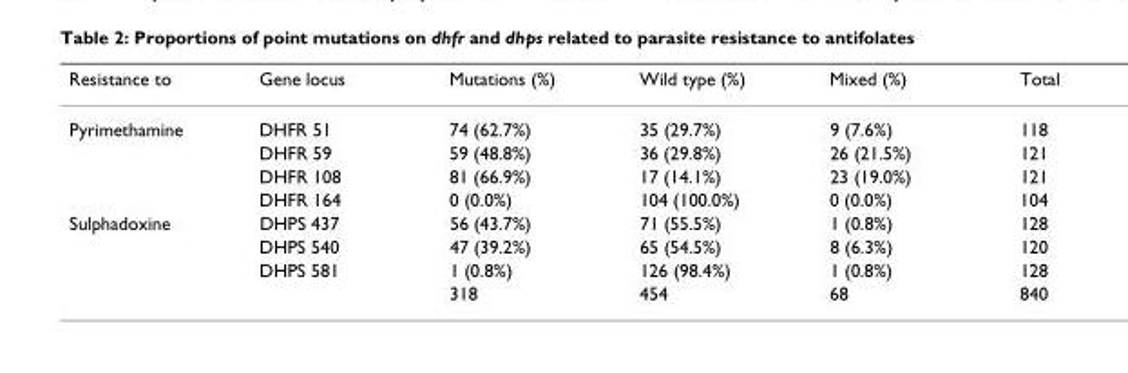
<table><thead><tr><td>Resistance to</td><td>Gene locus</td><td>Mutations (%)</td><td>Wild type (%)</td><td>Mixed (%)</td><td>Total</td></tr></thead><tbody><tr><td rowspan="4">Pyrimethamine</td><td>DHFR 51</td><td>74 (62.7%)</td><td>35 (29.7%)</td><td>9 (7.6%)</td><td>118</td></tr><tr><td>DHFR 59</td><td>59 (48.8%)</td><td>36 (29.8%)</td><td>26 (21.5%)</td><td>121</td></tr><tr><td>DHFR 108</td><td>81 (66.9%)</td><td>17 (14.1%)</td><td>23 (19.0%)</td><td>121</td></tr><tr><td>DHFR 164</td><td>0 (0.0%)</td><td>104 (100.0%)</td><td>0 (0.0%)</td><td>104</td></tr><tr><td rowspan="4">Sulphadoxine</td><td>DHPS 437</td><td>56 (43.7%)</td><td>71 (55.5%)</td><td>1 (0.8%)</td><td>128</td></tr><tr><td>DHPS 540</td><td>47 (39.2%)</td><td>65 (54.5%)</td><td>8 (6.3%)</td><td>120</td></tr><tr><td>DHPS 581</td><td>1 (0.8%)</td><td>126 (98.4%)</td><td>1 (0.8%)</td><td>128</td></tr><tr><td></td><td>318</td><td>454</td><td>68</td><td>840</td></tr></tbody></table>